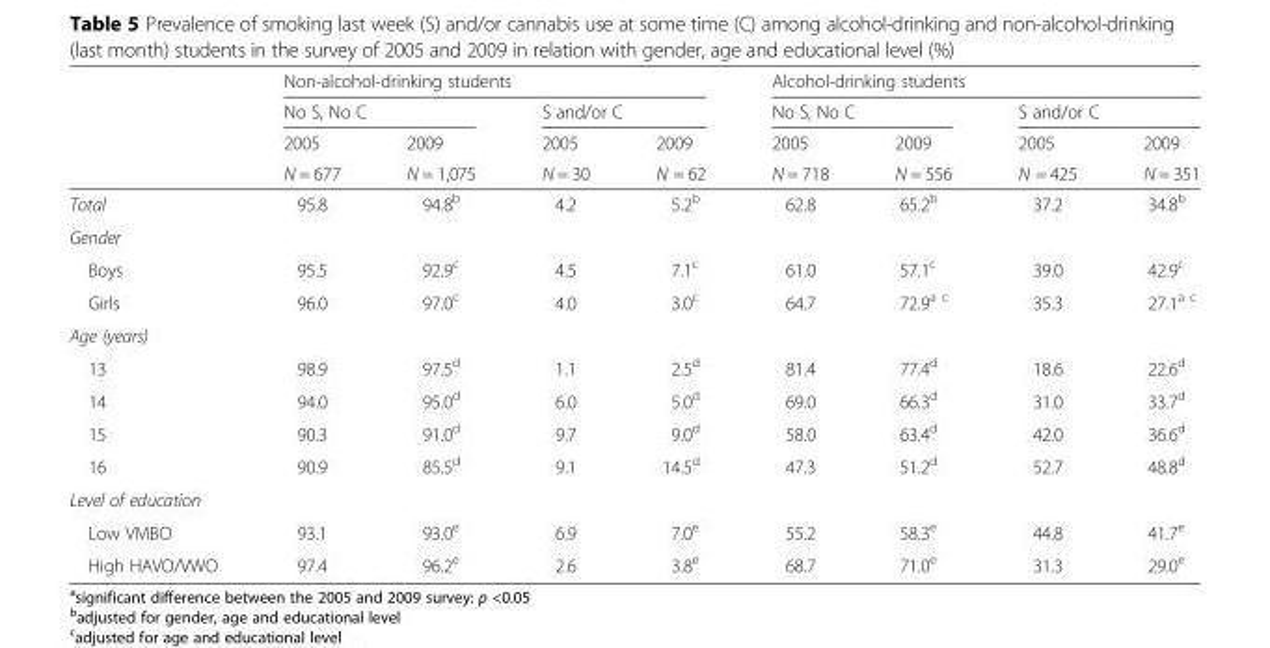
<table><thead><tr><td rowspan="4"></td><td colspan="4">Non-alcohol-drinking students</td><td colspan="4">Alcohol-drinking students</td></tr><tr><td colspan="2">No S, No C</td><td colspan="2">S and/or C</td><td colspan="2">No S, No C</td><td colspan="2">S and/or C</td></tr><tr><td rowspan="2">2005 N = 677</td><td rowspan="2">2009 N = 1,075</td><td rowspan="2">2005 N = 30</td><td rowspan="2">2009 N = 62</td><td rowspan="2">2005 N = 718</td><td rowspan="2">2009 N = 556</td><td rowspan="2">2005 N = 425</td><td rowspan="2">2009 N = 351</td></tr><tr></tr></thead><tbody><tr><td>Total</td><td>95.8</td><td>94.8<sup>b</sup></td><td>4.2</td><td>5.2<sup>b</sup></td><td>62.8</td><td>65.2<sup>b</sup></td><td>37.2</td><td>34.8<sup>b</sup></td></tr><tr><td colspan="9">Gender</td></tr><tr><td>Boys</td><td>95.5</td><td>92.9<sup>c</sup></td><td>4.5</td><td>7.1<sup>c</sup></td><td>61.0</td><td>57.1<sup>c</sup></td><td>39.0</td><td>42.9<sup>c</sup></td></tr><tr><td>Girls</td><td>96.0</td><td>97.0<sup>c</sup></td><td>4.0</td><td>3.0<sup>c</sup></td><td>64.7</td><td>72.9<sup>a c</sup></td><td>35.3</td><td>27.1<sup>a c</sup></td></tr><tr><td colspan="9">Age (years)</td></tr><tr><td>13</td><td>98.9</td><td>97.5<sup>d</sup></td><td>1.1</td><td>2.5<sup>d</sup></td><td>81.4</td><td>77.4<sup>d</sup></td><td>18.6</td><td>22.6<sup>d</sup></td></tr><tr><td>14</td><td>94.0</td><td>95.0<sup>d</sup></td><td>6.0</td><td>5.0<sup>d</sup></td><td>69.0</td><td>66.3<sup>d</sup></td><td>31.0</td><td>33.7<sup>d</sup></td></tr><tr><td>15</td><td>90.3</td><td>91.0<sup>d</sup></td><td>9.7</td><td>9.0<sup>d</sup></td><td>58.0</td><td>63.4<sup>d</sup></td><td>42.0</td><td>36.6<sup>d</sup></td></tr><tr><td>16</td><td>90.9</td><td>85.5<sup>d</sup></td><td>9.1</td><td>14.5<sup>d</sup></td><td>47.3</td><td>51.2<sup>d</sup></td><td>52.7</td><td>48.8<sup>d</sup></td></tr><tr><td colspan="9">Level of education</td></tr><tr><td>Low VMBO</td><td>93.1</td><td>93.0<sup>e</sup></td><td>6.9</td><td>7.0<sup>e</sup></td><td>55.2</td><td>58.3<sup>e</sup></td><td>44.8</td><td>41.7<sup>e</sup></td></tr><tr><td>High HAVO/VWO</td><td>97.4</td><td>96.2<sup>e</sup></td><td>2.6</td><td>3.8<sup>e</sup></td><td>68.7</td><td>71.0<sup>e</sup></td><td>31.3</td><td>29.0<sup>e</sup></td></tr></tbody></table>